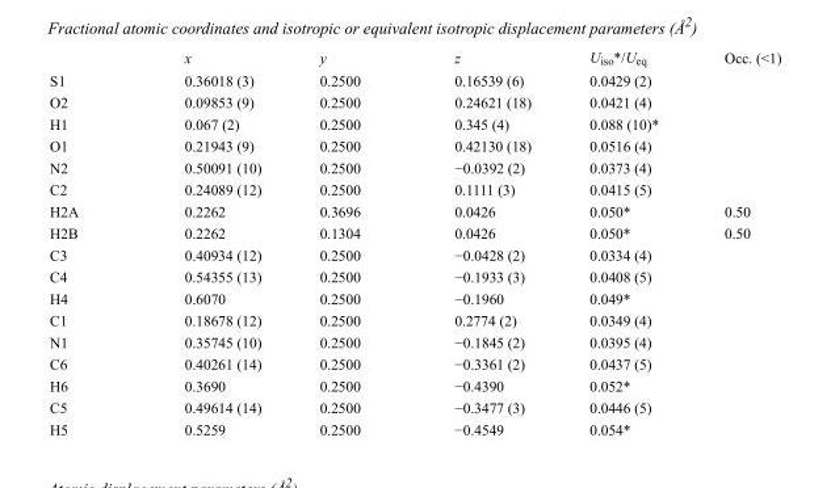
<table><thead><tr><td></td><td>x</td><td>y</td><td>z</td><td>U<sub>iso</sub>*/U<sub>eq</sub></td><td>Occ. (&lt;1)</td></tr></thead><tbody><tr><td>S1</td><td>0.36018 (3)</td><td>0.2500</td><td>0.16539 (6)</td><td>0.0429 (2)</td><td></td></tr><tr><td>O2</td><td>0.09853 (9)</td><td>0.2500</td><td>0.24621 (18)</td><td>0.0421 (4)</td><td></td></tr><tr><td>H1</td><td>0.067 (2)</td><td>0.2500</td><td>0.345 (4)</td><td>0.088 (10)*</td><td></td></tr><tr><td>O1</td><td>0.21943 (9)</td><td>0.2500</td><td>0.42130 (18)</td><td>0.0516 (4)</td><td></td></tr><tr><td>N2</td><td>0.50091 (10)</td><td>0.2500</td><td>−0.0392 (2)</td><td>0.0373 (4)</td><td></td></tr><tr><td>C2</td><td>0.24089 (12)</td><td>0.2500</td><td>0.1111 (3)</td><td>0.0415 (5)</td><td></td></tr><tr><td>H2A</td><td>0.2262</td><td>0.3696</td><td>0.0426</td><td>0.050*</td><td>0.50</td></tr><tr><td>H2B</td><td>0.2262</td><td>0.1304</td><td>0.0426</td><td>0.050*</td><td>0.50</td></tr><tr><td>C3</td><td>0.40934 (12)</td><td>0.2500</td><td>−0.0428 (2)</td><td>0.0334 (4)</td><td></td></tr><tr><td>C4</td><td>0.54355 (13)</td><td>0.2500</td><td>−0.1933 (3)</td><td>0.0408 (5)</td><td></td></tr><tr><td>H4</td><td>0.6070</td><td>0.2500</td><td>−0.1960</td><td>0.049*</td><td></td></tr><tr><td>C1</td><td>0.18678 (12)</td><td>0.2500</td><td>0.2774 (2)</td><td>0.0349 (4)</td><td></td></tr><tr><td>N1</td><td>0.35745 (10)</td><td>0.2500</td><td>−0.1845 (2)</td><td>0.0395 (4)</td><td></td></tr><tr><td>C6</td><td>0.40261 (14)</td><td>0.2500</td><td>−0.3361 (2)</td><td>0.0437 (5)</td><td></td></tr><tr><td>H6</td><td>0.3690</td><td>0.2500</td><td>−0.4390</td><td>0.052*</td><td></td></tr><tr><td>C5</td><td>0.49614 (14)</td><td>0.2500</td><td>−0.3477 (3)</td><td>0.0446 (5)</td><td></td></tr><tr><td>H5</td><td>0.5259</td><td>0.2500</td><td>−0.4549</td><td>0.054*</td><td></td></tr></tbody></table>